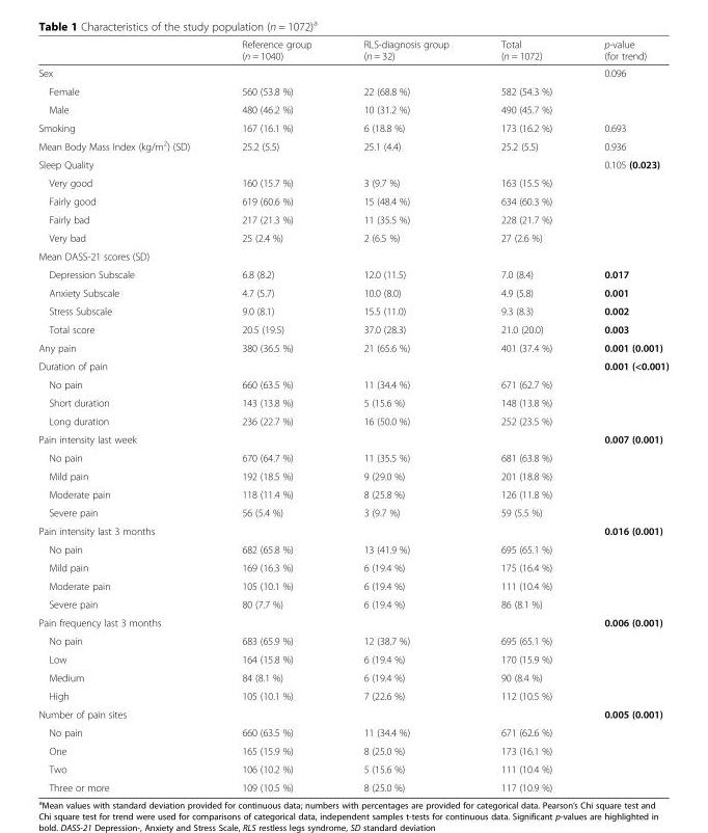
<table><thead><tr><td></td><td>Reference group (n = 1040)</td><td>RLS-diagnosis group (n = 32)</td><td>Total (n = 1072)</td><td>p-value (for trend)</td></tr></thead><tbody><tr><td>Sex</td><td></td><td></td><td></td><td>0.096</td></tr><tr><td>Female</td><td>560 (53.8 %)</td><td>22 (68.8 %)</td><td>582 (54.3 %)</td><td></td></tr><tr><td>Male</td><td>480 (46.2 %)</td><td>10 (31.2 %)</td><td>490 (45.7 %)</td><td></td></tr><tr><td>Smoking</td><td>167 (16.1 %)</td><td>6 (18.8 %)</td><td>173 (16.2 %)</td><td>0.693</td></tr><tr><td>Mean Body Mass Index (kg/m<sup>2</sup>) (SD)</td><td>25.2 (5.5)</td><td>25.1 (4.4)</td><td>25.2 (5.5)</td><td>0.936</td></tr><tr><td>Sleep Quality</td><td></td><td></td><td></td><td>0.105 (0.023)</td></tr><tr><td>Very good</td><td>160 (15.7 %)</td><td>3 (9.7 %)</td><td>163 (15.5 %)</td><td></td></tr><tr><td>Fairly good</td><td>619 (60.6 %)</td><td>15 (48.4 %)</td><td>634 (60.3 %)</td><td></td></tr><tr><td>Fairly bad</td><td>217 (21.3 %)</td><td>11 (35.5 %)</td><td>228 (21.7 %)</td><td></td></tr><tr><td>Very bad</td><td>25 (2.4 %)</td><td>2 (6.5 %)</td><td>27 (2.6 %)</td><td></td></tr><tr><td colspan="5">Mean DASS-21 scores (SD)</td></tr><tr><td>Depression Subscale</td><td>6.8 (8.2)</td><td>12.0 (11.5)</td><td>7.0 (8.4)</td><td>0.017</td></tr><tr><td>Anxiety Subscale</td><td>4.7 (5.7)</td><td>10.0 (8.0)</td><td>4.9 (5.8)</td><td>0.001</td></tr><tr><td>Stress Subscale</td><td>9.0 (8.1)</td><td>15.5 (11.0)</td><td>9.3 (8.3)</td><td>0.002</td></tr><tr><td>Total score</td><td>20.5 (19.5)</td><td>37.0 (28.3)</td><td>21.0 (20.0)</td><td>0.003</td></tr><tr><td>Any pain</td><td>380 (36.5 %)</td><td>21 (65.6 %)</td><td>401 (37.4 %)</td><td>0.001 (0.001)</td></tr><tr><td>Duration of pain</td><td></td><td></td><td></td><td>0.001 (&lt;0.001)</td></tr><tr><td>No pain</td><td>660 (63.5 %)</td><td>11 (34.4 %)</td><td>671 (62.7 %)</td><td></td></tr><tr><td>Short duration</td><td>143 (13.8 %)</td><td>5 (15.6 %)</td><td>148 (13.8 %)</td><td></td></tr><tr><td>Long duration</td><td>236 (22.7 %)</td><td>16 (50.0 %)</td><td>252 (23.5 %)</td><td></td></tr><tr><td>Pain intensity last week</td><td></td><td></td><td></td><td>0.007 (0.001)</td></tr><tr><td>No pain</td><td>670 (64.7 %)</td><td>11 (35.5 %)</td><td>681 (63.8 %)</td><td></td></tr><tr><td>Mild pain</td><td>192 (18.5 %)</td><td>9 (29.0 %)</td><td>201 (18.8 %)</td><td></td></tr><tr><td>Moderate pain</td><td>118 (11.4 %)</td><td>8 (25.8 %)</td><td>126 (11.8 %)</td><td></td></tr><tr><td>Severe pain</td><td>56 (5.4 %)</td><td>3 (9.7 %)</td><td>59 (5.5 %)</td><td></td></tr><tr><td>Pain intensity last 3 months</td><td></td><td></td><td></td><td>0.016 (0.001)</td></tr><tr><td>No pain</td><td>682 (65.8 %)</td><td>13 (41.9 %)</td><td>695 (65.1 %)</td><td></td></tr><tr><td>Mild pain</td><td>169 (16.3 %)</td><td>6 (19.4 %)</td><td>175 (16.4 %)</td><td></td></tr><tr><td>Moderate pain</td><td>105 (10.1 %)</td><td>6 (19.4 %)</td><td>111 (10.4 %)</td><td></td></tr><tr><td>Severe pain</td><td>80 (7.7 %)</td><td>6 (19.4 %)</td><td>86 (8.1 %)</td><td></td></tr><tr><td>Pain frequency last 3 months</td><td></td><td></td><td></td><td>0.006 (0.001)</td></tr><tr><td>No pain</td><td>683 (65.9 %)</td><td>12 (38.7 %)</td><td>695 (65.1 %)</td><td></td></tr><tr><td>Low</td><td>164 (15.8 %)</td><td>6 (19.4 %)</td><td>170 (15.9 %)</td><td></td></tr><tr><td>Medium</td><td>84 (8.1 %)</td><td>6 (19.4 %)</td><td>90 (8.4 %)</td><td></td></tr><tr><td>High</td><td>105 (10.1 %)</td><td>7 (22.6 %)</td><td>112 (10.5 %)</td><td></td></tr><tr><td>Number of pain sites</td><td></td><td></td><td></td><td>0.005 (0.001)</td></tr><tr><td>No pain</td><td>660 (63.5 %)</td><td>11 (34.4 %)</td><td>671 (62.6 %)</td><td></td></tr><tr><td>One</td><td>165 (15.9 %)</td><td>8 (25.0 %)</td><td>173 (16.1 %)</td><td></td></tr><tr><td>Two</td><td>106 (10.2 %)</td><td>5 (15.6 %)</td><td>111 (10.4 %)</td><td></td></tr><tr><td>Three or more</td><td>109 (10.5 %)</td><td>8 (25.0 %)</td><td>117 (10.9 %)</td><td></td></tr></tbody></table>